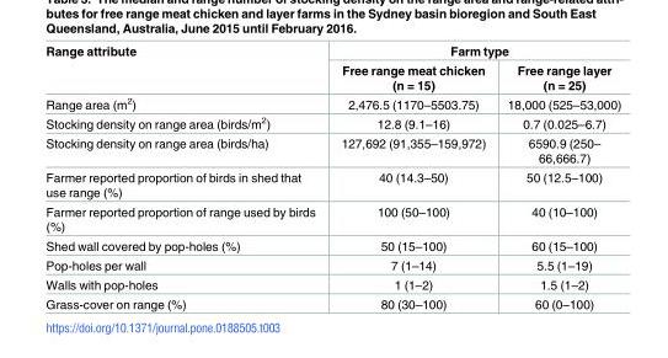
<table><thead><tr><td rowspan="2">Range attribute</td><td colspan="2">Farm type</td></tr><tr><td>Free range meat chicken (n = 15)</td><td>Free range layer (n = 25)</td></tr></thead><tbody><tr><td>Range area (m<sup>2</sup>)</td><td>2,476.5 (1170–5503.75)</td><td>18,000 (525–53,000)</td></tr><tr><td>Stocking density on range area (birds/m<sup>2</sup>)</td><td>12.8 (9.1–16)</td><td>0.7 (0.025–6.7)</td></tr><tr><td>Stocking density on range area (birds/ha)</td><td>127,692 (91,355–159,972)</td><td>6590.9 (250– 66,666.7)</td></tr><tr><td>Farmer reported proportion of birds in shed that use range (%)</td><td>40 (14.3–50)</td><td>50 (12.5–100)</td></tr><tr><td>Farmer reported proportion of range used by birds (%)</td><td>100 (50–100)</td><td>40 (10–100)</td></tr><tr><td>Shed wall covered by pop-holes (%)</td><td>50 (15–100)</td><td>60 (15–100)</td></tr><tr><td>Pop-holes per wall</td><td>7 (1–14)</td><td>5.5 (1–19)</td></tr><tr><td>Walls with pop-holes</td><td>1 (1–2)</td><td>1.5 (1–2)</td></tr><tr><td>Grass-cover on range (%)</td><td>80 (30–100)</td><td>60 (0–100)</td></tr></tbody></table>